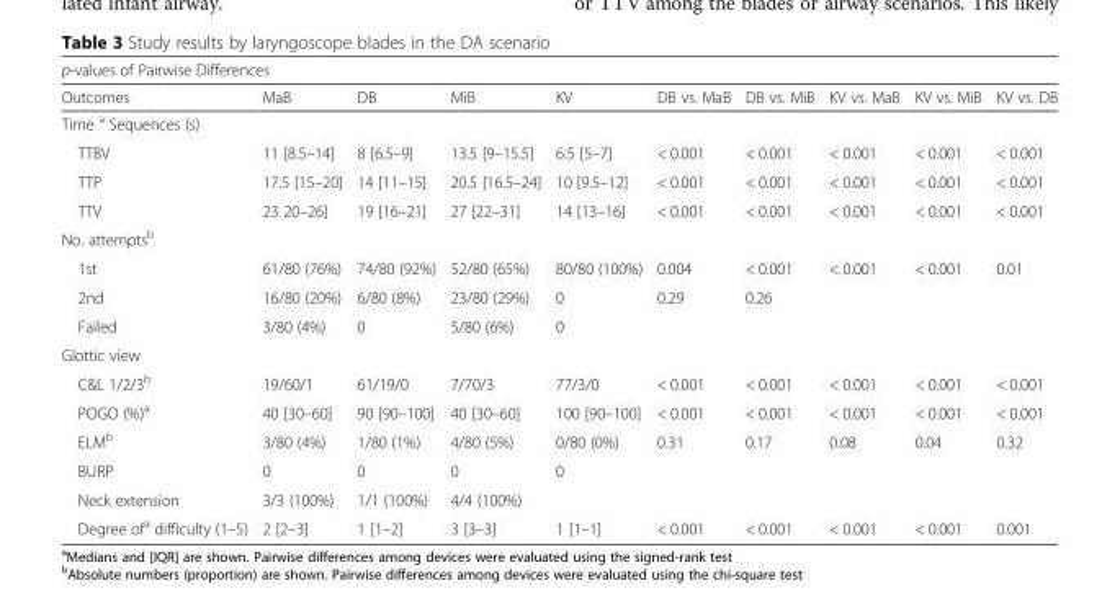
<table><thead><tr><td colspan="10">p-values of Pairwise Differences</td></tr><tr><td>Outcomes</td><td>MaB</td><td>DB</td><td>MiB</td><td>KV</td><td>DB vs. MaB</td><td>DB vs. MiB</td><td>KV vs. MaB</td><td>KV vs. MiB</td><td>KV vs. DB</td></tr></thead><tbody><tr><td colspan="10">Time <sup>a</sup> Sequences (s)</td></tr><tr><td>TTBV</td><td>11 [8.5–14]</td><td>8 [6.5–9]</td><td>13.5 [9–15.5]</td><td>6.5 [5–7]</td><td>&lt; 0.001</td><td>&lt; 0.001</td><td>&lt; 0.001</td><td>&lt; 0.001</td><td>&lt; 0.001</td></tr><tr><td>TTP</td><td>17.5 [15–20]</td><td>14 [11–15]</td><td>20.5 [16.5–24]</td><td>10 [9.5–12]</td><td>&lt; 0.001</td><td>&lt; 0.001</td><td>&lt; 0.001</td><td>&lt; 0.001</td><td>&lt; 0.001</td></tr><tr><td>TTV</td><td>23 20–26]</td><td>19 [16–21]</td><td>27 [22–31]</td><td>14 [13–16]</td><td>&lt; 0.001</td><td>&lt; 0.001</td><td>&lt; 0.001</td><td>&lt; 0.001</td><td>&lt; 0.001</td></tr><tr><td colspan="10">No. attempts<sup>b</sup></td></tr><tr><td>1st</td><td>61/80 (76%)</td><td>74/80 (92%)</td><td>52/80 (65%)</td><td>80/80 (100%)</td><td>0.004</td><td>&lt; 0.001</td><td>&lt; 0.001</td><td>&lt; 0.001</td><td>0.01</td></tr><tr><td>2nd</td><td>16/80 (20%)</td><td>6/80 (8%)</td><td>23/80 (29%)</td><td>0</td><td>0.29</td><td>0.26</td><td></td><td></td><td></td></tr><tr><td>Failed</td><td>3/80 (4%)</td><td>0</td><td>5/80 (6%)</td><td>0</td><td></td><td></td><td></td><td></td><td></td></tr><tr><td colspan="10">Glottic view</td></tr><tr><td>C&amp;L 1/2/3<sup>b</sup></td><td>19/60/1</td><td>61/19/0</td><td>7/70/3</td><td>77/3/0</td><td>&lt; 0.001</td><td>&lt; 0.001</td><td>&lt; 0.001</td><td>&lt; 0.001</td><td>&lt; 0.001</td></tr><tr><td>POGO (%)<sup>a</sup></td><td>40 [30–60]</td><td>90 [90–100]</td><td>40 [30–60]</td><td>100 [90–100]</td><td>&lt; 0.001</td><td>&lt; 0.001</td><td>&lt; 0.001</td><td>&lt; 0.001</td><td>&lt; 0.001</td></tr><tr><td>ELM<sup>b</sup></td><td>3/80 (4%)</td><td>1/80 (1%)</td><td>4/80 (5%)</td><td>0/80 (0%)</td><td>0.31</td><td>0.17</td><td>0.08</td><td>0.04</td><td>0.32</td></tr><tr><td>BURP</td><td>0</td><td>0</td><td>0</td><td>0</td><td></td><td></td><td></td><td></td><td></td></tr><tr><td>Neck extension</td><td>3/3 (100%)</td><td>1/1 (100%)</td><td>4/4 (100%)</td><td></td><td></td><td></td><td></td><td></td><td></td></tr><tr><td>Degree of<sup>a</sup> difficulty (1–5)</td><td>2 [2–3]</td><td>1 [1–2]</td><td>3 [3–3]</td><td>1 [1–1]</td><td>&lt; 0.001</td><td>&lt; 0.001</td><td>&lt; 0.001</td><td>&lt; 0.001</td><td>0.001</td></tr></tbody></table>